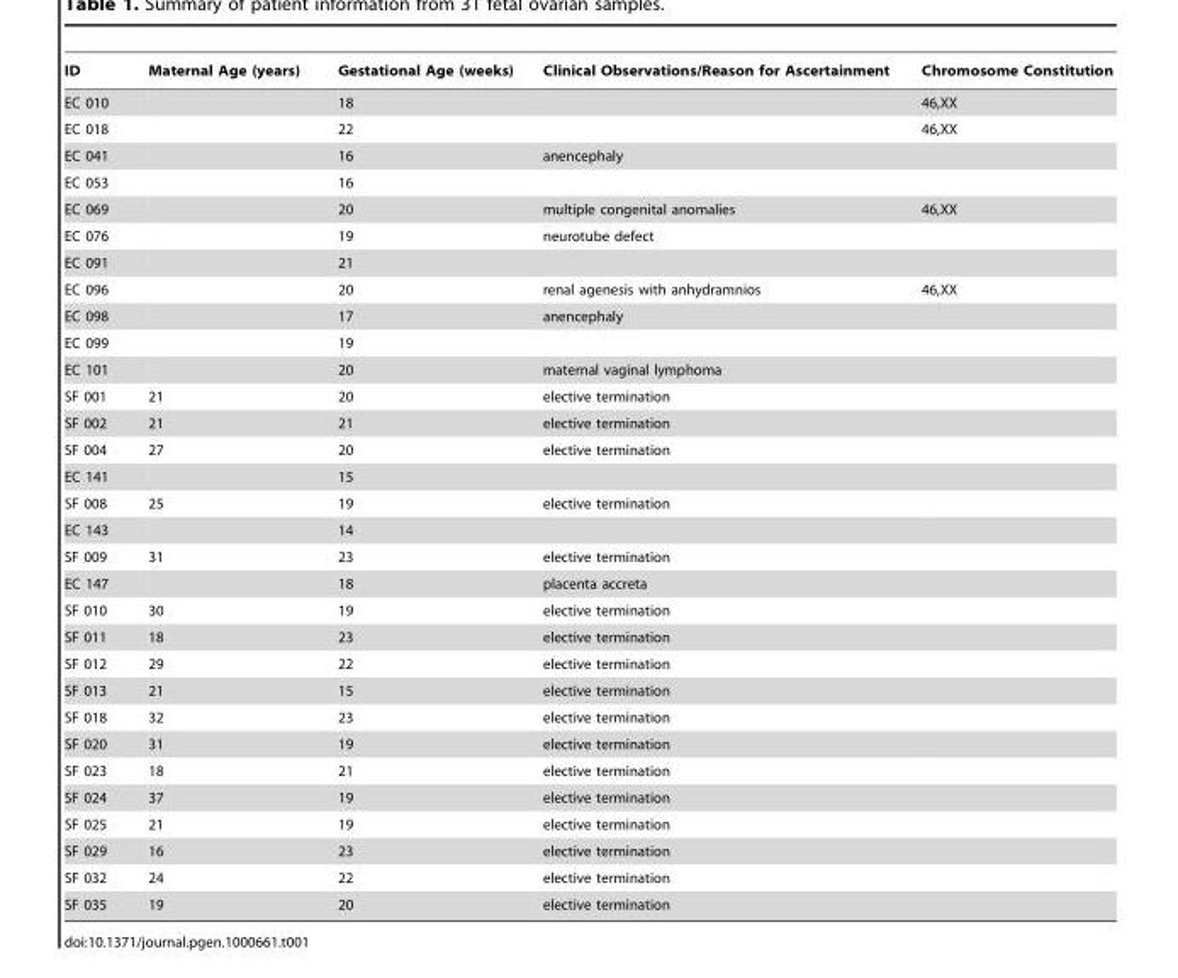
<table><thead><tr><td>ID</td><td>Maternal Age (years)</td><td>Gestational Age (weeks)</td><td>Clinical Observations/Reason for Ascertainment</td><td>Chromosome Constitution</td></tr></thead><tbody><tr><td>EC 010</td><td></td><td>18</td><td></td><td>46,XX</td></tr><tr><td>EC 018</td><td></td><td>22</td><td></td><td>46,XX</td></tr><tr><td>EC 041</td><td></td><td>16</td><td>anencephaly</td><td></td></tr><tr><td>EC 053</td><td></td><td>16</td><td></td><td></td></tr><tr><td>EC 069</td><td></td><td>20</td><td>multiple congenital anomalies</td><td>46,XX</td></tr><tr><td>EC 076</td><td></td><td>19</td><td>neurotube defect</td><td></td></tr><tr><td>EC 091</td><td></td><td>21</td><td></td><td></td></tr><tr><td>EC 096</td><td></td><td>20</td><td>renal agenesis with anhydramnios</td><td>46,XX</td></tr><tr><td>EC 098</td><td></td><td>17</td><td>anencephaly</td><td></td></tr><tr><td>EC 099</td><td></td><td>19</td><td></td><td></td></tr><tr><td>EC 101</td><td></td><td>20</td><td>maternal vaginal lymphoma</td><td></td></tr><tr><td>SF 001</td><td>21</td><td>20</td><td>elective termination</td><td></td></tr><tr><td>SF 002</td><td>21</td><td>21</td><td>elective termination</td><td></td></tr><tr><td>SF 004</td><td>27</td><td>20</td><td>elective termination</td><td></td></tr><tr><td>EC 141</td><td></td><td>15</td><td></td><td></td></tr><tr><td>SF 008</td><td>25</td><td>19</td><td>elective termination</td><td></td></tr><tr><td>EC 143</td><td></td><td>14</td><td></td><td></td></tr><tr><td>SF 009</td><td>31</td><td>23</td><td>elective termination</td><td></td></tr><tr><td>EC 147</td><td></td><td>18</td><td>placenta accreta</td><td></td></tr><tr><td>SF 010</td><td>30</td><td>19</td><td>elective termination</td><td></td></tr><tr><td>SF 011</td><td>18</td><td>23</td><td>elective termination</td><td></td></tr><tr><td>SF 012</td><td>29</td><td>22</td><td>elective termination</td><td></td></tr><tr><td>SF 013</td><td>21</td><td>15</td><td>elective termination</td><td></td></tr><tr><td>SF 018</td><td>32</td><td>23</td><td>elective termination</td><td></td></tr><tr><td>SF 020</td><td>31</td><td>19</td><td>elective termination</td><td></td></tr><tr><td>SF 023</td><td>18</td><td>21</td><td>elective termination</td><td></td></tr><tr><td>SF 024</td><td>37</td><td>19</td><td>elective termination</td><td></td></tr><tr><td>SF 025</td><td>21</td><td>19</td><td>elective termination</td><td></td></tr><tr><td>SF 029</td><td>16</td><td>23</td><td>elective termination</td><td></td></tr><tr><td>SF 032</td><td>24</td><td>22</td><td>elective termination</td><td></td></tr><tr><td>SF 035</td><td>19</td><td>20</td><td>elective termination</td><td></td></tr></tbody></table>